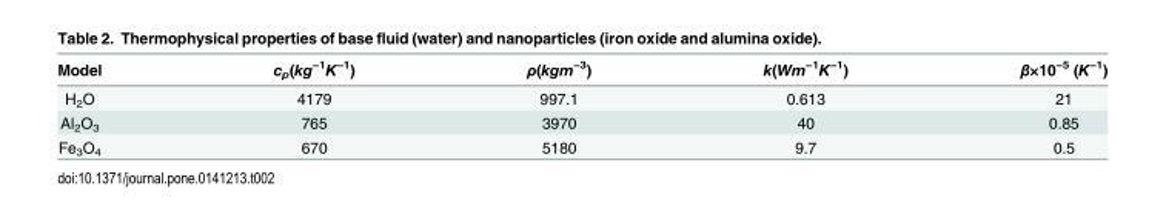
<table><thead><tr><td>Model</td><td>c<sub>p</sub>(kg<sup>−1</sup>K<sup>−1</sup>)</td><td>ρ(kgm<sup>−3</sup>)</td><td>k(Wm<sup>−1</sup>K<sup>−1</sup>)</td><td>β×10<sup>−5</sup> (K<sup>−1</sup>)</td></tr></thead><tbody><tr><td>H<sub>2</sub>O</td><td>4179</td><td>997.1</td><td>0.613</td><td>21</td></tr><tr><td>Al<sub>2</sub>O<sub>3</sub></td><td>765</td><td>3970</td><td>40</td><td>0.85</td></tr><tr><td>Fe<sub>3</sub>O<sub>4</sub></td><td>670</td><td>5180</td><td>9.7</td><td>0.5</td></tr></tbody></table>